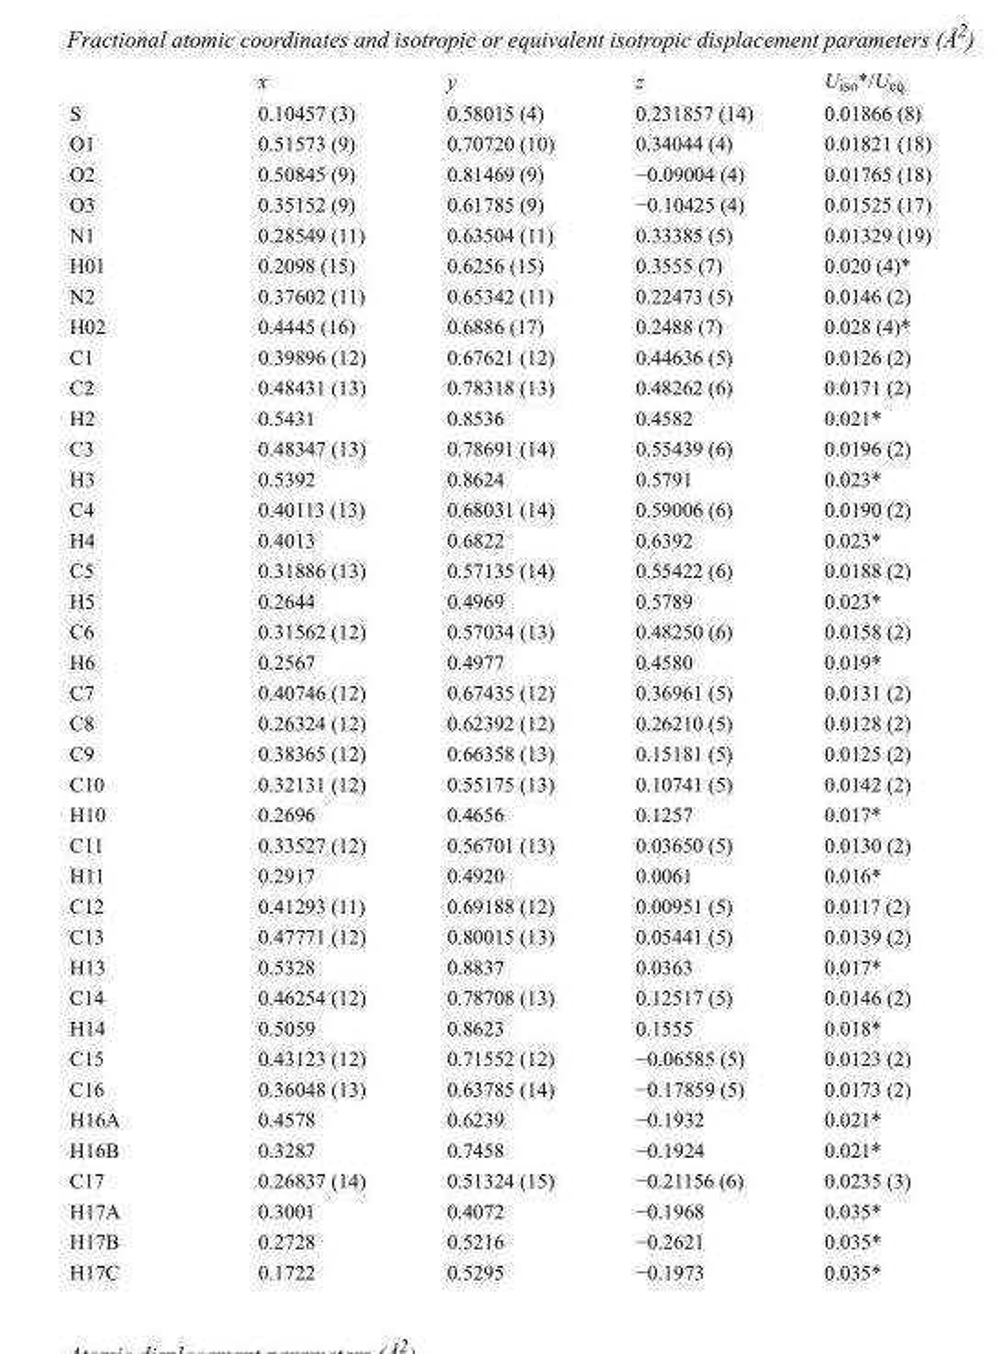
<table><thead><tr><td></td><td>x</td><td>y</td><td>z</td><td>U<sub>iso</sub>*/U<sub>eq</sub></td></tr></thead><tbody><tr><td>S</td><td>0.10457 (3)</td><td>0.58015 (4)</td><td>0.231857 (14)</td><td>0.01866 (8)</td></tr><tr><td>O1</td><td>0.51573 (9)</td><td>0.70720 (10)</td><td>0.34044 (4)</td><td>0.01821 (18)</td></tr><tr><td>O2</td><td>0.50845 (9)</td><td>0.81469 (9)</td><td>−0.09004 (4)</td><td>0.01765 (18)</td></tr><tr><td>O3</td><td>0.35152 (9)</td><td>0.61785 (9)</td><td>−0.10425 (4)</td><td>0.01525 (17)</td></tr><tr><td>N1</td><td>0.28549 (11)</td><td>0.63504 (11)</td><td>0.33385 (5)</td><td>0.01329 (19)</td></tr><tr><td>H01</td><td>0.2098 (15)</td><td>0.6256 (15)</td><td>0.3555 (7)</td><td>0.020 (4)*</td></tr><tr><td>N2</td><td>0.37602 (11)</td><td>0.65342 (11)</td><td>0.22473 (5)</td><td>0.0146 (2)</td></tr><tr><td>H02</td><td>0.4445 (16)</td><td>0.6886 (17)</td><td>0.2488 (7)</td><td>0.028 (4)*</td></tr><tr><td>C1</td><td>0.39896 (12)</td><td>0.67621 (12)</td><td>0.44636 (5)</td><td>0.0126 (2)</td></tr><tr><td>C2</td><td>0.48431 (13)</td><td>0.78318 (13)</td><td>0.48262 (6)</td><td>0.0171 (2)</td></tr><tr><td>H2</td><td>0.5431</td><td>0.8536</td><td>0.4582</td><td>0.021*</td></tr><tr><td>C3</td><td>0.48347 (13)</td><td>0.78691 (14)</td><td>0.55439 (6)</td><td>0.0196 (2)</td></tr><tr><td>H3</td><td>0.5392</td><td>0.8624</td><td>0.5791</td><td>0.023*</td></tr><tr><td>C4</td><td>0.40113 (13)</td><td>0.68031 (14)</td><td>0.59006 (6)</td><td>0.0190 (2)</td></tr><tr><td>H4</td><td>0.4013</td><td>0.6822</td><td>0.6392</td><td>0.023*</td></tr><tr><td>C5</td><td>0.31886 (13)</td><td>0.57135 (14)</td><td>0.55422 (6)</td><td>0.0188 (2)</td></tr><tr><td>H5</td><td>0.2644</td><td>0.4969</td><td>0.5789</td><td>0.023*</td></tr><tr><td>C6</td><td>0.31562 (12)</td><td>0.57034 (13)</td><td>0.48250 (6)</td><td>0.0158 (2)</td></tr><tr><td>H6</td><td>0.2567</td><td>0.4977</td><td>0.4580</td><td>0.019*</td></tr><tr><td>C7</td><td>0.40746 (12)</td><td>0.67435 (12)</td><td>0.36961 (5)</td><td>0.0131 (2)</td></tr><tr><td>C8</td><td>0.26324 (12)</td><td>0.62392 (12)</td><td>0.26210 (5)</td><td>0.0128 (2)</td></tr><tr><td>C9</td><td>0.38365 (12)</td><td>0.66358 (13)</td><td>0.15181 (5)</td><td>0.0125 (2)</td></tr><tr><td>C10</td><td>0.32131 (12)</td><td>0.55175 (13)</td><td>0.10741 (5)</td><td>0.0142 (2)</td></tr><tr><td>H10</td><td>0.2696</td><td>0.4656</td><td>0.1257</td><td>0.017*</td></tr><tr><td>C11</td><td>0.33527 (12)</td><td>0.56701 (13)</td><td>0.03650 (5)</td><td>0.0130 (2)</td></tr><tr><td>H11</td><td>0.2917</td><td>0.4920</td><td>0.0061</td><td>0.016*</td></tr><tr><td>C12</td><td>0.41293 (11)</td><td>0.69188 (12)</td><td>0.00951 (5)</td><td>0.0117 (2)</td></tr><tr><td>C13</td><td>0.47771 (12)</td><td>0.80015 (13)</td><td>0.05441 (5)</td><td>0.0139 (2)</td></tr><tr><td>H13</td><td>0.5328</td><td>0.8837</td><td>0.0363</td><td>0.017*</td></tr><tr><td>C14</td><td>0.46254 (12)</td><td>0.78708 (13)</td><td>0.12517 (5)</td><td>0.0146 (2)</td></tr><tr><td>H14</td><td>0.5059</td><td>0.8623</td><td>0.1555</td><td>0.018*</td></tr><tr><td>C15</td><td>0.43123 (12)</td><td>0.71552 (12)</td><td>−0.06585 (5)</td><td>0.0123 (2)</td></tr><tr><td>C16</td><td>0.36048 (13)</td><td>0.63785 (14)</td><td>−0.17859 (5)</td><td>0.0173 (2)</td></tr><tr><td>H16A</td><td>0.4578</td><td>0.6239</td><td>−0.1932</td><td>0.021*</td></tr><tr><td>H16B</td><td>0.3287</td><td>0.7458</td><td>−0.1924</td><td>0.021*</td></tr><tr><td>C17</td><td>0.26837 (14)</td><td>0.51324 (15)</td><td>−0.21156 (6)</td><td>0.0235 (3)</td></tr><tr><td>H17A</td><td>0.3001</td><td>0.4072</td><td>−0.1968</td><td>0.035*</td></tr><tr><td>H17B</td><td>0.2728</td><td>0.5216</td><td>−0.2621</td><td>0.035*</td></tr><tr><td>H17C</td><td>0.1722</td><td>0.5295</td><td>−0.1973</td><td>0.035*</td></tr></tbody></table>